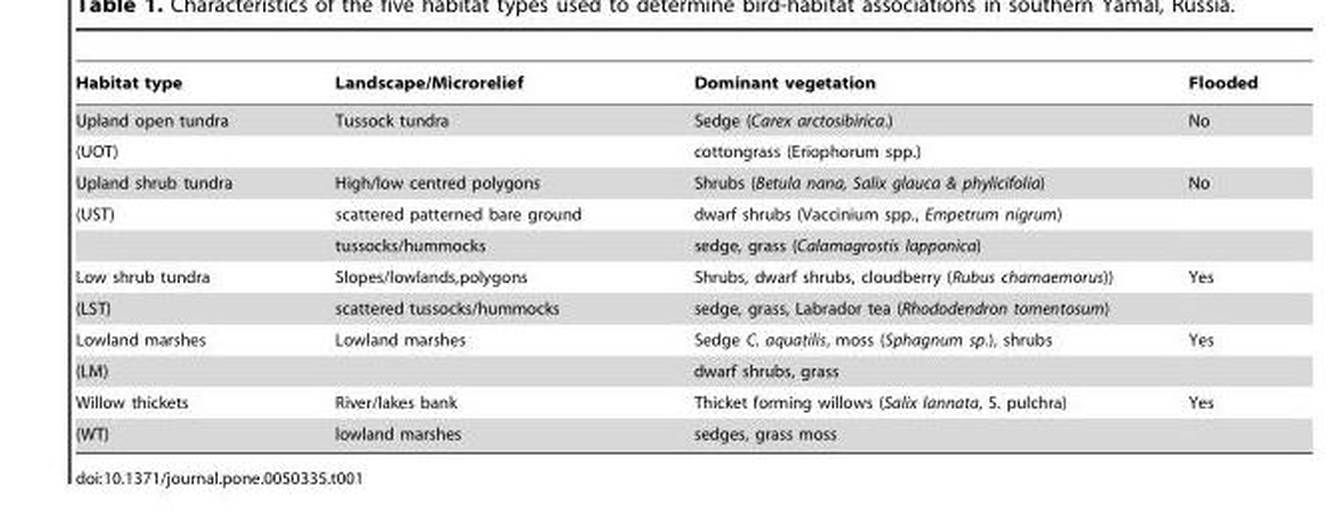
<table><thead><tr><td>Habitat type</td><td>Landscape/Microrelief</td><td>Dominant vegetation</td><td>Flooded</td></tr></thead><tbody><tr><td>Upland open tundra</td><td>Tussock tundra</td><td>Sedge (Carex arctosibirica.)</td><td>No</td></tr><tr><td>(UOT)</td><td></td><td>cottongrass (Eriophorum spp.)</td><td></td></tr><tr><td>Upland shrub tundra</td><td>High/low centred polygons</td><td>Shrubs (Betula nana, Salix glauca &amp; phylicifolia)</td><td>No</td></tr><tr><td rowspan="2">(UST)</td><td>scattered patterned bare ground</td><td>dwarf shrubs (Vaccinium spp., Empetrum nigrum)</td><td></td></tr><tr><td>tussocks/hummocks</td><td>sedge, grass (Calamagrostis lapponica)</td><td></td></tr><tr><td>Low shrub tundra</td><td>Slopes/lowlands,polygons</td><td>Shrubs, dwarf shrubs, cloudberry (Rubus chamaemorus))</td><td>Yes</td></tr><tr><td>(LST)</td><td>scattered tussocks/hummocks</td><td>sedge, grass, Labrador tea (Rhododendron tomentosum)</td><td></td></tr><tr><td>Lowland marshes</td><td>Lowland marshes</td><td>Sedge C. aquatilis, moss (Sphagnum sp.), shrubs</td><td>Yes</td></tr><tr><td>(LM)</td><td></td><td>dwarf shrubs, grass</td><td></td></tr><tr><td>Willow thickets</td><td>River/lakes bank</td><td>Thicket forming willows (Salix lannata, S. pulchra)</td><td>Yes</td></tr><tr><td>(WT)</td><td>lowland marshes</td><td>sedges, grass moss</td><td></td></tr></tbody></table>